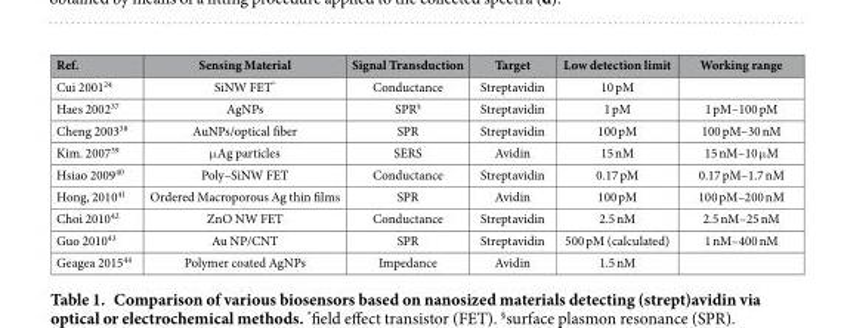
<table><thead><tr><td>Ref.</td><td>Sensing Material</td><td>Signal Transduction</td><td>Target</td><td>Low detection limit</td><td>Working range</td></tr></thead><tbody><tr><td>Cui 2001<sup>24</sup></td><td>SiNW FET*</td><td>Conductance</td><td>Streptavidin</td><td>10 pM</td><td></td></tr><tr><td>Haes 2002<sup>37</sup></td><td>AgNPs</td><td>SPR§</td><td>Streptavidin</td><td>1 pM</td><td>1 pM–100 pM</td></tr><tr><td>Cheng 2003<sup>38</sup></td><td>AuNPs/optical fiber</td><td>SPR</td><td>Streptavidin</td><td>100 pM</td><td>100 pM–30 nM</td></tr><tr><td>Kim. 2007<sup>39</sup></td><td>μ Ag particles</td><td>SERS</td><td>Avidin</td><td>15 nM</td><td>15 nM–10 μ M</td></tr><tr><td>Hsiao 2009<sup>40</sup></td><td>Poly–SiNW FET</td><td>Conductance</td><td>Streptavidin</td><td>0.17 pM</td><td>0.17 pM–1.7 nM</td></tr><tr><td>Hong, 2010<sup>41</sup></td><td>Ordered Macroporous Ag thin films</td><td>SPR</td><td>Avidin</td><td>100 pM</td><td>100 pM–200 nM</td></tr><tr><td>Choi 2010<sup>42</sup></td><td>ZnO NW FET</td><td>Conductance</td><td>Streptavidin</td><td>2.5 nM</td><td>2.5 nM–25 nM</td></tr><tr><td>Guo 2010<sup>43</sup></td><td>Au NP/CNT</td><td>SPR</td><td>Streptavidin</td><td>500 pM (calculated)</td><td>1 nM–400 nM</td></tr><tr><td>Geagea 2015<sup>44</sup></td><td>Polymer coated AgNPs</td><td>Impedance</td><td>Avidin</td><td>1.5 nM</td><td></td></tr></tbody></table>